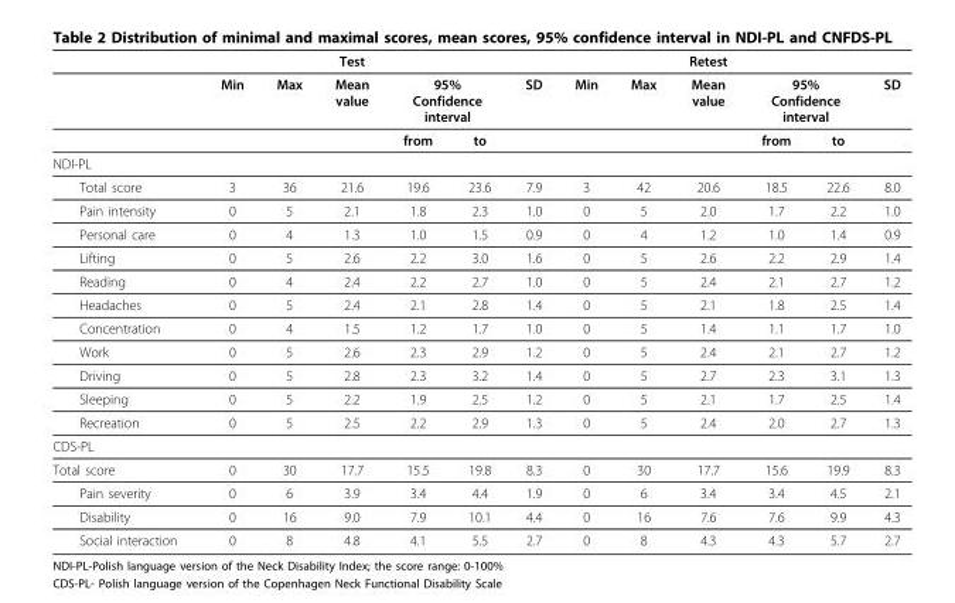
<table><thead><tr><td></td><td></td><td></td><td>Test</td><td></td><td></td><td></td><td></td><td></td><td>Retest</td><td></td><td></td><td></td></tr></thead><tbody><tr><td></td><td>Min</td><td>Max</td><td>Mean value</td><td colspan="2">95% Confidence interval</td><td>SD</td><td>Min</td><td>Max</td><td>Mean value</td><td colspan="2">95% Confidence interval</td><td>SD</td></tr><tr><td></td><td></td><td></td><td></td><td>from</td><td>to</td><td></td><td></td><td></td><td></td><td>from</td><td>to</td><td></td></tr><tr><td colspan="13">NDI-PL</td></tr><tr><td>Total score</td><td>3</td><td>36</td><td>21.6</td><td>19.6</td><td>23.6</td><td>7.9</td><td>3</td><td>42</td><td>20.6</td><td>18.5</td><td>22.6</td><td>8.0</td></tr><tr><td>Pain intensity</td><td>0</td><td>5</td><td>2.1</td><td>1.8</td><td>2.3</td><td>1.0</td><td>0</td><td>5</td><td>2.0</td><td>1.7</td><td>2.2</td><td>1.0</td></tr><tr><td>Personal care</td><td>0</td><td>4</td><td>1.3</td><td>1.0</td><td>1.5</td><td>0.9</td><td>0</td><td>4</td><td>1.2</td><td>1.0</td><td>1.4</td><td>0.9</td></tr><tr><td>Lifting</td><td>0</td><td>5</td><td>2.6</td><td>2.2</td><td>3.0</td><td>1.6</td><td>0</td><td>5</td><td>2.6</td><td>2.2</td><td>2.9</td><td>1.4</td></tr><tr><td>Reading</td><td>0</td><td>4</td><td>2.4</td><td>2.2</td><td>2.7</td><td>1.0</td><td>0</td><td>5</td><td>2.4</td><td>2.1</td><td>2.7</td><td>1.2</td></tr><tr><td>Headaches</td><td>0</td><td>5</td><td>2.4</td><td>2.1</td><td>2.8</td><td>1.4</td><td>0</td><td>5</td><td>2.1</td><td>1.8</td><td>2.5</td><td>1.4</td></tr><tr><td>Concentration</td><td>0</td><td>4</td><td>1.5</td><td>1.2</td><td>1.7</td><td>1.0</td><td>0</td><td>5</td><td>1.4</td><td>1.1</td><td>1.7</td><td>1.0</td></tr><tr><td>Work</td><td>0</td><td>5</td><td>2.6</td><td>2.3</td><td>2.9</td><td>1.2</td><td>0</td><td>5</td><td>2.4</td><td>2.1</td><td>2.7</td><td>1.2</td></tr><tr><td>Driving</td><td>0</td><td>5</td><td>2.8</td><td>2.3</td><td>3.2</td><td>1.4</td><td>0</td><td>5</td><td>2.7</td><td>2.3</td><td>3.1</td><td>1.3</td></tr><tr><td>Sleeping</td><td>0</td><td>5</td><td>2.2</td><td>1.9</td><td>2.5</td><td>1.2</td><td>0</td><td>5</td><td>2.1</td><td>1.7</td><td>2.5</td><td>1.4</td></tr><tr><td>Recreation</td><td>0</td><td>5</td><td>2.5</td><td>2.2</td><td>2.9</td><td>1.3</td><td>0</td><td>5</td><td>2.4</td><td>2.0</td><td>2.7</td><td>1.3</td></tr><tr><td colspan="13">CDS-PL</td></tr><tr><td>Total score</td><td>0</td><td>30</td><td>17.7</td><td>15.5</td><td>19.8</td><td>8.3</td><td>0</td><td>30</td><td>17.7</td><td>15.6</td><td>19.9</td><td>8.3</td></tr><tr><td>Pain severity</td><td>0</td><td>6</td><td>3.9</td><td>3.4</td><td>4.4</td><td>1.9</td><td>0</td><td>6</td><td>3.4</td><td>3.4</td><td>4.5</td><td>2.1</td></tr><tr><td>Disability</td><td>0</td><td>16</td><td>9.0</td><td>7.9</td><td>10.1</td><td>4.4</td><td>0</td><td>16</td><td>7.6</td><td>7.6</td><td>9.9</td><td>4.3</td></tr><tr><td>Social interaction</td><td>0</td><td>8</td><td>4.8</td><td>4.1</td><td>5.5</td><td>2.7</td><td>0</td><td>8</td><td>4.3</td><td>4.3</td><td>5.7</td><td>2.7</td></tr></tbody></table>